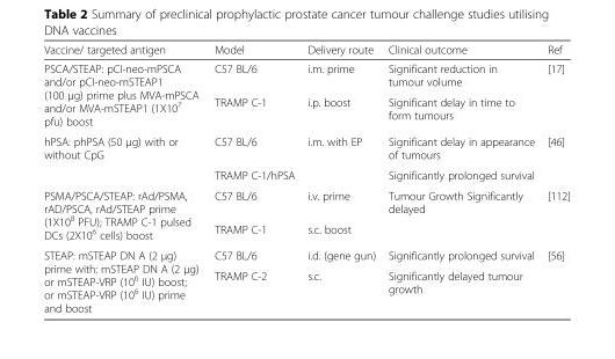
<table><thead><tr><td>Vaccine/ targeted antigen</td><td>Model</td><td>Delivery route</td><td>Clinical outcome</td><td>Ref</td></tr></thead><tbody><tr><td rowspan="2">PSCA/STEAP: pCI-neo-mPSCA and/or pCI-neo-mSTEAP1 (100 μg) prime plus MVA-mPSCA and/or MVA-mSTEAP1 (1X10<sup>7</sup> pfu) boost</td><td>C57 BL/6</td><td>i.m. prime</td><td>Significant reduction in tumour volume</td><td rowspan="2">[17]</td></tr><tr><td>TRAMP C-1</td><td>i.p. boost</td><td>Significant delay in time to form tumours</td></tr><tr><td rowspan="2">hPSA: phPSA (50 μg) with or without CpG</td><td>C57 BL/6</td><td>i.m. with EP</td><td>Significant delay in appearance of tumours</td><td rowspan="2">[46]</td></tr><tr><td>TRAMP C-1/hPSA</td><td></td><td>Significantly prolonged survival</td></tr><tr><td rowspan="2">PSMA/PSCA/STEAP: rAd/PSMA, rAD/PSCA, rAd/STEAP prime (1X10<sup>8</sup> PFU); TRAMP C-1 pulsed DCs (2X10<sup>6</sup> cells) boost</td><td>C57 BL/6</td><td>i.v. prime</td><td>Tumour Growth Significantly delayed</td><td rowspan="2">[112]</td></tr><tr><td>TRAMP C-1</td><td>s.c. boost</td><td></td></tr><tr><td rowspan="2">STEAP: mSTEAP DN A (2 μg) prime with: mSTEAP DN A (2 μg) or mSTEAP-VRP (10<sup>6</sup> IU) boost; or mSTEAP-VRP (10<sup>6</sup> IU) prime and boost</td><td>C57 BL/6</td><td>i.d. (gene gun)</td><td>Significantly prolonged survival</td><td rowspan="2">[56]</td></tr><tr><td>TRAMP C-2</td><td>s.c.</td><td>Significantly delayed tumour growth</td></tr></tbody></table>